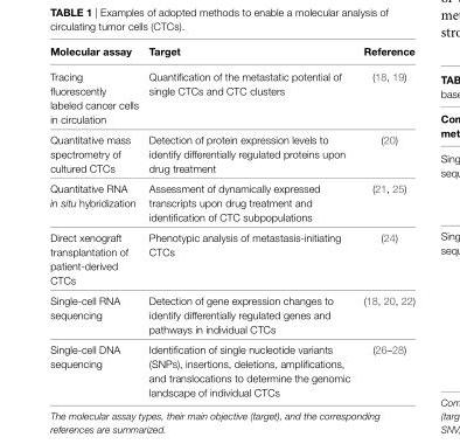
<table><thead><tr><td>Molecular assay</td><td>Target</td><td>Reference</td></tr></thead><tbody><tr><td>Tracing fluorescently labeled cancer cells in circulation</td><td>Quantification of the metastatic potential of single CTCs and CTC clusters</td><td>(18, 19)</td></tr><tr><td>Quantitative mass spectrometry of cultured CTCs</td><td>Detection of protein expression levels to identify differentially regulated proteins upon drug treatment</td><td>(20)</td></tr><tr><td>Quantitative RNA in situ hybridization</td><td>Assessment of dynamically expressed transcripts upon drug treatment and identification of CTC subpopulations</td><td>(21, 25)</td></tr><tr><td>Direct xenograft transplantation of patient-derived CTCs</td><td>Phenotypic analysis of metastasis-initiating CTCs</td><td>(24)</td></tr><tr><td>Single-cell RNA sequencing</td><td>Detection of gene expression changes to identify differentially regulated genes and pathways in individual CTCs</td><td>(18, 20, 22)</td></tr><tr><td>Single-cell DNA sequencing</td><td>Identification of single nucleotide variants (SNPs), insertions, deletions, amplifications, and translocations to determine the genomic landscape of individual CTCs</td><td>(26–28)</td></tr></tbody></table>